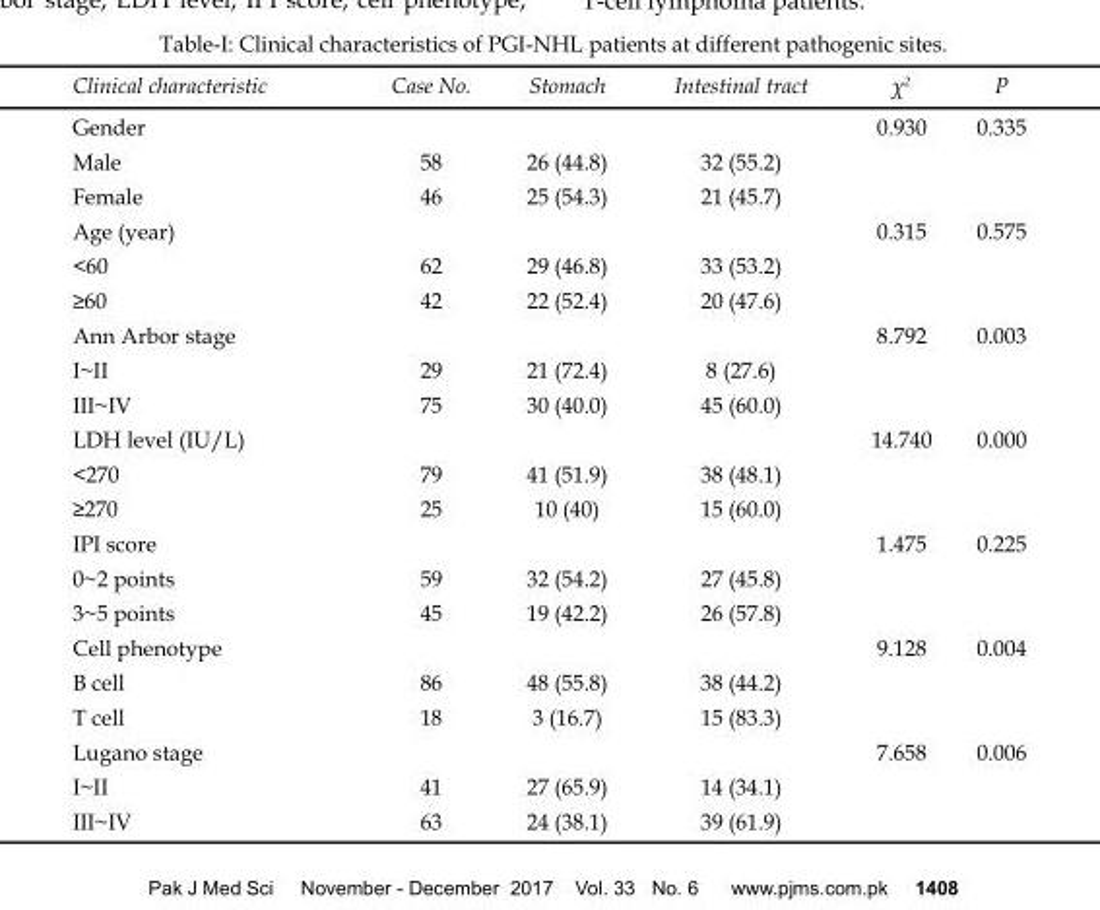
<table><thead><tr><td>Clinical characteristic</td><td>Case No.</td><td>Stomach</td><td>Intestinal tract</td><td>χ<sup>2</sup></td><td>P</td></tr></thead><tbody><tr><td>Gender</td><td></td><td></td><td></td><td>0.930</td><td>0.335</td></tr><tr><td>Male</td><td>58</td><td>26 (44.8)</td><td>32 (55.2)</td><td></td><td></td></tr><tr><td>Female</td><td>46</td><td>25 (54.3)</td><td>21 (45.7)</td><td></td><td></td></tr><tr><td>Age (year)</td><td></td><td></td><td></td><td>0.315</td><td>0.575</td></tr><tr><td>&lt;60</td><td>62</td><td>29 (46.8)</td><td>33 (53.2)</td><td></td><td></td></tr><tr><td>≥60</td><td>42</td><td>22 (52.4)</td><td>20 (47.6)</td><td></td><td></td></tr><tr><td>Ann Arbor stage</td><td></td><td></td><td></td><td>8.792</td><td>0.003</td></tr><tr><td>I~II</td><td>29</td><td>21 (72.4)</td><td>8 (27.6)</td><td></td><td></td></tr><tr><td>III~IV</td><td>75</td><td>30 (40.0)</td><td>45 (60.0)</td><td></td><td></td></tr><tr><td>LDH level (IU/L)</td><td></td><td></td><td></td><td>14.740</td><td>0.000</td></tr><tr><td>&lt;270</td><td>79</td><td>41 (51.9)</td><td>38 (48.1)</td><td></td><td></td></tr><tr><td>≥270</td><td>25</td><td>10 (40)</td><td>15 (60.0)</td><td></td><td></td></tr><tr><td>IPI score</td><td></td><td></td><td></td><td>1.475</td><td>0.225</td></tr><tr><td>0~2 points</td><td>59</td><td>32 (54.2)</td><td>27 (45.8)</td><td></td><td></td></tr><tr><td>3~5 points</td><td>45</td><td>19 (42.2)</td><td>26 (57.8)</td><td></td><td></td></tr><tr><td>Cell phenotype</td><td></td><td></td><td></td><td>9.128</td><td>0.004</td></tr><tr><td>B cell</td><td>86</td><td>48 (55.8)</td><td>38 (44.2)</td><td></td><td></td></tr><tr><td>T cell</td><td>18</td><td>3 (16.7)</td><td>15 (83.3)</td><td></td><td></td></tr><tr><td>Lugano stage</td><td></td><td></td><td></td><td>7.658</td><td>0.006</td></tr><tr><td>I~II</td><td>41</td><td>27 (65.9)</td><td>14 (34.1)</td><td></td><td></td></tr><tr><td>III~IV</td><td>63</td><td>24 (38.1)</td><td>39 (61.9)</td><td></td><td></td></tr></tbody></table>